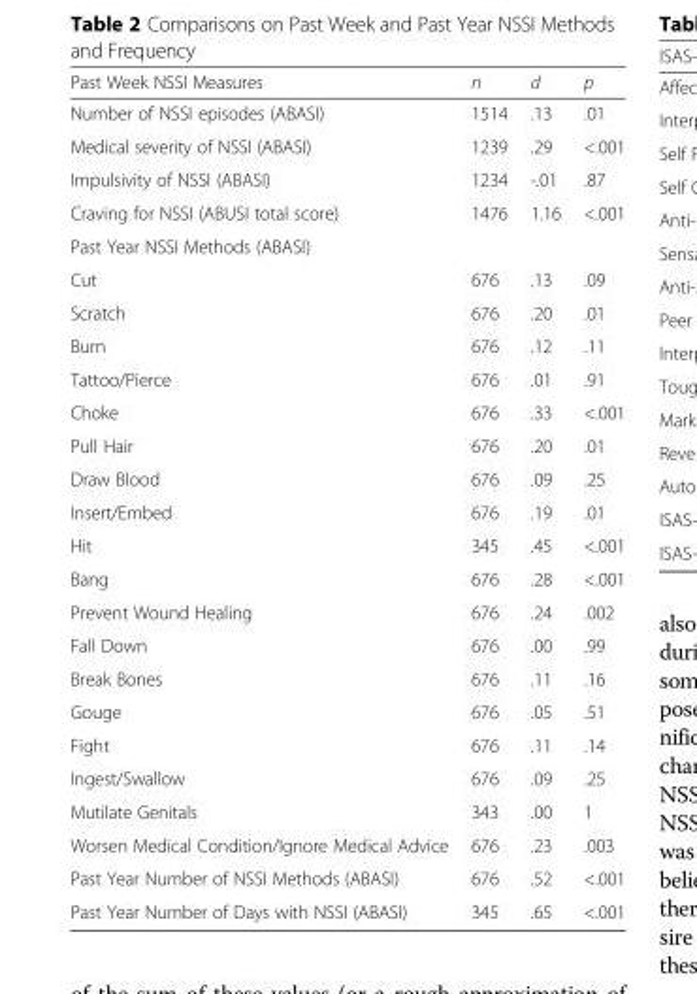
<table><thead><tr><td>Past Week NSSI Measures</td><td>n</td><td>d</td><td>p</td></tr></thead><tbody><tr><td>Number of NSSI episodes (ABASI)</td><td>1514</td><td>.13</td><td>.01</td></tr><tr><td>Medical severity of NSSI (ABASI)</td><td>1239</td><td>.29</td><td>&lt;.001</td></tr><tr><td>Impulsivity of NSSI (ABASI)</td><td>1234</td><td>-.01</td><td>.87</td></tr><tr><td>Craving for NSSI (ABUSI total score)</td><td>1476</td><td>1.16</td><td>&lt;.001</td></tr><tr><td colspan="4">Past Year NSSI Methods (ABASI)</td></tr><tr><td>Cut</td><td>676</td><td>.13</td><td>.09</td></tr><tr><td>Scratch</td><td>676</td><td>.20</td><td>.01</td></tr><tr><td>Burn</td><td>676</td><td>.12</td><td>.11</td></tr><tr><td>Tattoo/Pierce</td><td>676</td><td>.01</td><td>.91</td></tr><tr><td>Choke</td><td>676</td><td>.33</td><td>&lt;.001</td></tr><tr><td>Pull Hair</td><td>676</td><td>.20</td><td>.01</td></tr><tr><td>Draw Blood</td><td>676</td><td>.09</td><td>.25</td></tr><tr><td>Insert/Embed</td><td>676</td><td>.19</td><td>.01</td></tr><tr><td>Hit</td><td>345</td><td>.45</td><td>&lt;.001</td></tr><tr><td>Bang</td><td>676</td><td>.28</td><td>&lt;.001</td></tr><tr><td>Prevent Wound Healing</td><td>676</td><td>.24</td><td>.002</td></tr><tr><td>Fall Down</td><td>676</td><td>.00</td><td>.99</td></tr><tr><td>Break Bones</td><td>676</td><td>.11</td><td>.16</td></tr><tr><td>Gouge</td><td>676</td><td>.05</td><td>.51</td></tr><tr><td>Fight</td><td>676</td><td>.11</td><td>.14</td></tr><tr><td>Ingest/Swallow</td><td>676</td><td>.09</td><td>.25</td></tr><tr><td>Mutilate Genitals</td><td>343</td><td>.00</td><td>1</td></tr><tr><td>Worsen Medical Condition/Ignore Medical Advice</td><td>676</td><td>.23</td><td>.003</td></tr><tr><td>Past Year Number of NSSI Methods (ABASI)</td><td>676</td><td>.52</td><td>&lt;.001</td></tr><tr><td>Past Year Number of Days with NSSI (ABASI)</td><td>345</td><td>.65</td><td>&lt;.001</td></tr></tbody></table>